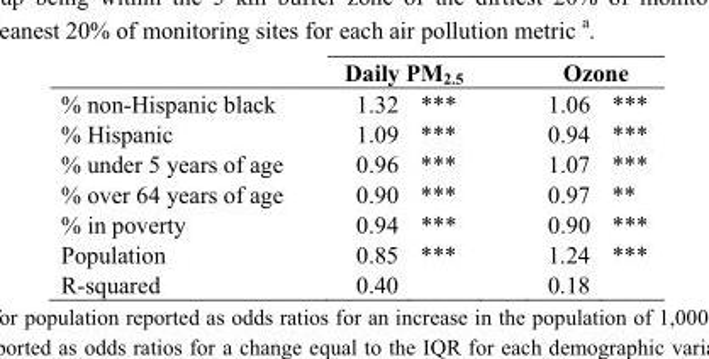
<table><thead><tr><td></td><td>Daily PM<sub>2.5</sub></td><td>Ozone</td></tr></thead><tbody><tr><td>% non-Hispanic black</td><td>1.32 ***</td><td>1.06 ***</td></tr><tr><td>% Hispanic</td><td>1.09 ***</td><td>0.94 ***</td></tr><tr><td>% under 5 years of age</td><td>0.96 ***</td><td>1.07 ***</td></tr><tr><td>% over 64 years of age</td><td>0.90 ***</td><td>0.97 **</td></tr><tr><td>% in poverty</td><td>0.94 ***</td><td>0.90 ***</td></tr><tr><td>Population</td><td>0.85 ***</td><td>1.24 ***</td></tr><tr><td>R-squared</td><td>0.40</td><td>0.18</td></tr></tbody></table>